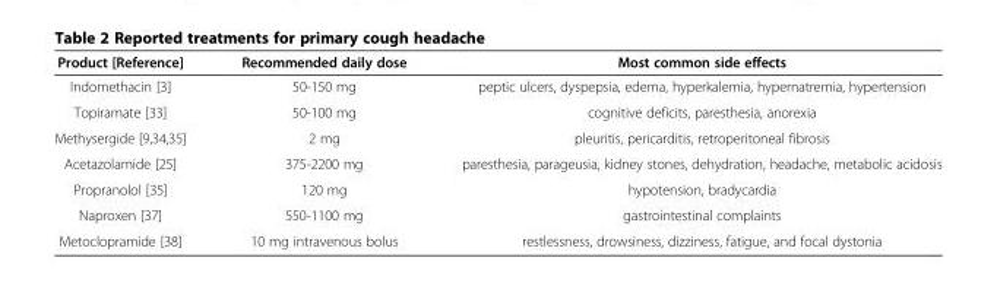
<table><thead><tr><td>Product [Reference]</td><td>Recommended daily dose</td><td>Most common side effects</td></tr></thead><tbody><tr><td>Indomethacin [3]</td><td>50-150 mg</td><td>peptic ulcers, dyspepsia, edema, hyperkalemia, hypernatremia, hypertension</td></tr><tr><td>Topiramate [33]</td><td>50-100 mg</td><td>cognitive deficits, paresthesia, anorexia</td></tr><tr><td>Methysergide [9,34,35]</td><td>2 mg</td><td>pleuritis, pericarditis, retroperitoneal fibrosis</td></tr><tr><td>Acetazolamide [25]</td><td>375-2200 mg</td><td>paresthesia, parageusia, kidney stones, dehydration, headache, metabolic acidosis</td></tr><tr><td>Propranolol [35]</td><td>120 mg</td><td>hypotension, bradycardia</td></tr><tr><td>Naproxen [37]</td><td>550-1100 mg</td><td>gastrointestinal complaints</td></tr><tr><td>Metoclopramide [38]</td><td>10 mg intravenous bolus</td><td>restlessness, drowsiness, dizziness, fatigue, and focal dystonia</td></tr></tbody></table>